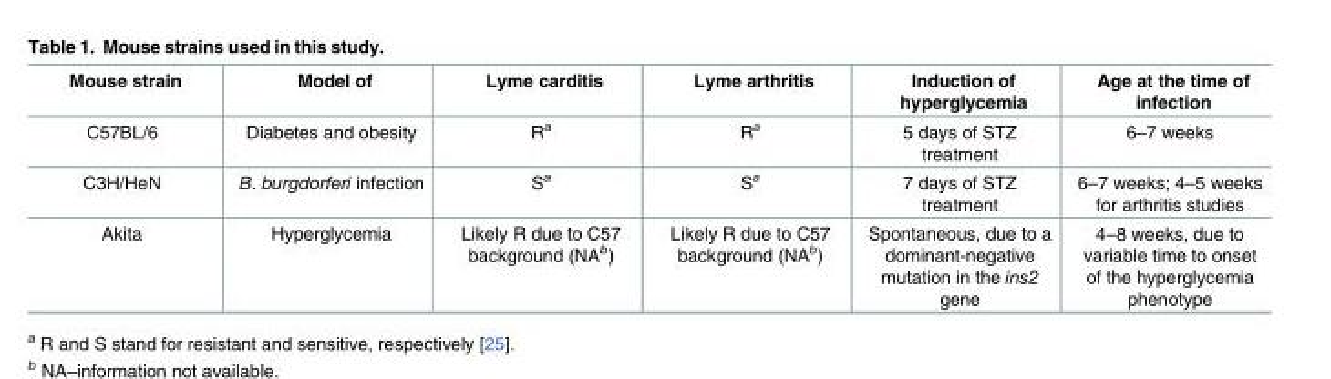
<table><thead><tr><td>Mouse strain</td><td>Model of</td><td>Lyme carditis</td><td>Lyme arthritis</td><td>Induction of hyperglycemia</td><td>Age at the time of infection</td></tr></thead><tbody><tr><td>C57BL/6</td><td>Diabetes and obesity</td><td>R<sup>a</sup></td><td>R<sup>a</sup></td><td>5 days of STZ treatment</td><td>6–7 weeks</td></tr><tr><td>C3H/HeN</td><td>B. burgdorferi infection</td><td>S<sup>a</sup></td><td>S<sup>a</sup></td><td>7 days of STZ treatment</td><td>6–7 weeks; 4–5 weeks for arthritis studies</td></tr><tr><td>Akita</td><td>Hyperglycemia</td><td>Likely R due to C57 background (NA<sup>b</sup>)</td><td>Likely R due to C57 background (NA<sup>b</sup>)</td><td>Spontaneous, due to a dominant-negative mutation in the ins2 gene</td><td>4–8 weeks, due to variable time to onset of the hyperglycemia phenotype</td></tr></tbody></table>